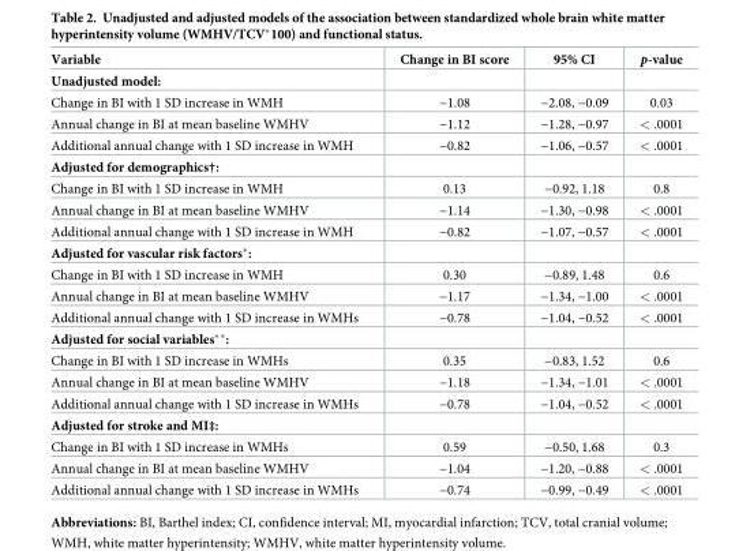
<table><thead><tr><td>Variable</td><td>Change in BI score</td><td>95% CI</td><td>p-value</td></tr></thead><tbody><tr><td colspan="4">Unadjusted model:</td></tr><tr><td>Change in BI with 1 SD increase in WMH</td><td>−1.08</td><td>−2.08, −0.09</td><td>0.03</td></tr><tr><td>Annual change in BI at mean baseline WMHV</td><td>−1.12</td><td>−1.28, −0.97</td><td>&lt; .0001</td></tr><tr><td>Additional annual change with 1 SD increase in WMH</td><td>−0.82</td><td>−1.06, −0.57</td><td>&lt; .0001</td></tr><tr><td colspan="4">Adjusted for demographics†:</td></tr><tr><td>Change in BI with 1 SD increase in WMH</td><td>0.13</td><td>−0.92, 1.18</td><td>0.8</td></tr><tr><td>Annual change in BI at mean baseline WMHV</td><td>−1.14</td><td>−1.30, −0.98</td><td>&lt; .0001</td></tr><tr><td>Additional annual change with 1 SD increase in WMH</td><td>−0.82</td><td>−1.07, −0.57</td><td>&lt; .0001</td></tr><tr><td colspan="4">Adjusted for vascular risk factors*:</td></tr><tr><td>Change in BI with 1 SD increase in WMH</td><td>0.30</td><td>−0.89, 1.48</td><td>0.6</td></tr><tr><td>Annual change in BI at mean baseline WMHV</td><td>−1.17</td><td>−1.34, −1.00</td><td>&lt; .0001</td></tr><tr><td>Additional annual change with 1 SD increase in WMHs</td><td>−0.78</td><td>−1.04, −0.52</td><td>&lt; .0001</td></tr><tr><td colspan="4">Adjusted for social variables**:</td></tr><tr><td>Change in BI with 1 SD increase in WMHs</td><td>0.35</td><td>−0.83, 1.52</td><td>0.6</td></tr><tr><td>Annual change in BI at mean baseline WMHV</td><td>−1.18</td><td>−1.34, −1.01</td><td>&lt; .0001</td></tr><tr><td>Additional annual change with 1 SD increase in WMHs</td><td>−0.78</td><td>−1.04, −0.52</td><td>&lt; .0001</td></tr><tr><td colspan="4">Adjusted for stroke and MI‡:</td></tr><tr><td>Change in BI with 1 SD increase in WMHs</td><td>0.59</td><td>−0.50, 1.68</td><td>0.3</td></tr><tr><td>Annual change in BI at mean baseline WMHV</td><td>−1.04</td><td>−1.20, −0.88</td><td>&lt; .0001</td></tr><tr><td>Additional annual change with 1 SD increase in WMHs</td><td>−0.74</td><td>−0.99, −0.49</td><td>&lt; .0001</td></tr></tbody></table>